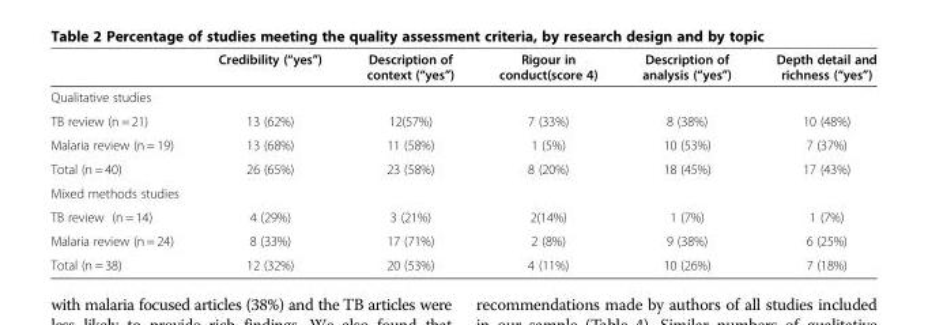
<table><thead><tr><td></td><td>Credibility (“yes”)</td><td>Description of context (“yes”)</td><td>Rigour in conduct(score 4)</td><td>Description of analysis (“yes”)</td><td>Depth detail and richness (“yes”)</td></tr></thead><tbody><tr><td colspan="6">Qualitative studies</td></tr><tr><td>TB review (n = 21)</td><td>13 (62%)</td><td>12(57%)</td><td>7 (33%)</td><td>8 (38%)</td><td>10 (48%)</td></tr><tr><td>Malaria review (n = 19)</td><td>13 (68%)</td><td>11 (58%)</td><td>1 (5%)</td><td>10 (53%)</td><td>7 (37%)</td></tr><tr><td>Total (n = 40)</td><td>26 (65%)</td><td>23 (58%)</td><td>8 (20%)</td><td>18 (45%)</td><td>17 (43%)</td></tr><tr><td colspan="6">Mixed methods studies</td></tr><tr><td>TB review (n = 14)</td><td>4 (29%)</td><td>3 (21%)</td><td>2(14%)</td><td>1 (7%)</td><td>1 (7%)</td></tr><tr><td>Malaria review (n = 24)</td><td>8 (33%)</td><td>17 (71%)</td><td>2 (8%)</td><td>9 (38%)</td><td>6 (25%)</td></tr><tr><td>Total (n = 38)</td><td>12 (32%)</td><td>20 (53%)</td><td>4 (11%)</td><td>10 (26%)</td><td>7 (18%)</td></tr></tbody></table>